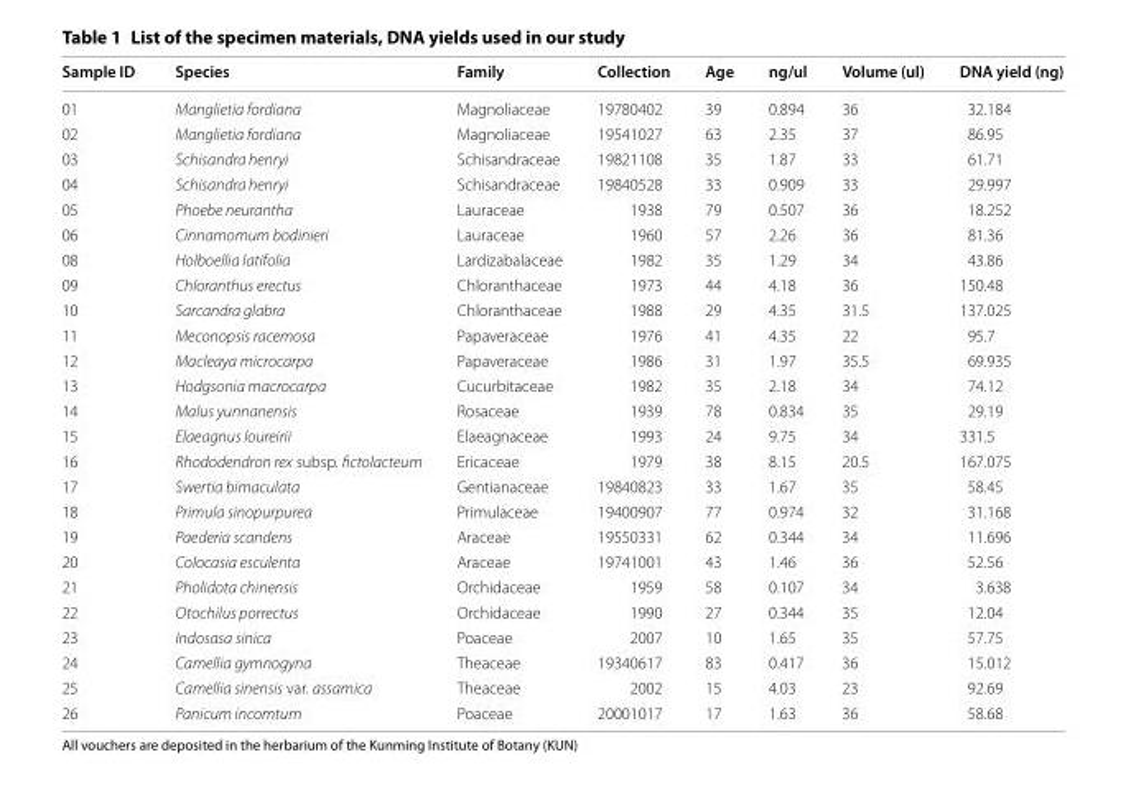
<table><thead><tr><td>Sample ID</td><td>Species</td><td>Family</td><td>Collection</td><td>Age</td><td>ng/ul</td><td>Volume (ul)</td><td>DNA yield (ng)</td></tr></thead><tbody><tr><td>01</td><td>Manglietia fordiana</td><td>Magnoliaceae</td><td>19780402</td><td>39</td><td>0.894</td><td>36</td><td>32.184</td></tr><tr><td>02</td><td>Manglietia fordiana</td><td>Magnoliaceae</td><td>19541027</td><td>63</td><td>2.35</td><td>37</td><td>86.95</td></tr><tr><td>03</td><td>Schisandra henryi</td><td>Schisandraceae</td><td>19821108</td><td>35</td><td>1.87</td><td>33</td><td>61.71</td></tr><tr><td>04</td><td>Schisandra henryi</td><td>Schisandraceae</td><td>19840528</td><td>33</td><td>0.909</td><td>33</td><td>29.997</td></tr><tr><td>05</td><td>Phoebe neurantha</td><td>Lauraceae</td><td>1938</td><td>79</td><td>0.507</td><td>36</td><td>18.252</td></tr><tr><td>06</td><td>Cinnamomum bodinieri</td><td>Lauraceae</td><td>1960</td><td>57</td><td>2.26</td><td>36</td><td>81.36</td></tr><tr><td>08</td><td>Holboellia latifolia</td><td>Lardizabalaceae</td><td>1982</td><td>35</td><td>1.29</td><td>34</td><td>43.86</td></tr><tr><td>09</td><td>Chloranthus erectus</td><td>Chloranthaceae</td><td>1973</td><td>44</td><td>4.18</td><td>36</td><td>150.48</td></tr><tr><td>10</td><td>Sarcandra glabra</td><td>Chloranthaceae</td><td>1988</td><td>29</td><td>4.35</td><td>31.5</td><td>137.025</td></tr><tr><td>11</td><td>Meconopsis racemosa</td><td>Papaveraceae</td><td>1976</td><td>41</td><td>4.35</td><td>22</td><td>95.7</td></tr><tr><td>12</td><td>Macleaya microcarpa</td><td>Papaveraceae</td><td>1986</td><td>31</td><td>1.97</td><td>35.5</td><td>69.935</td></tr><tr><td>13</td><td>Hodgsonia macrocarpa</td><td>Cucurbitaceae</td><td>1982</td><td>35</td><td>2.18</td><td>34</td><td>74.12</td></tr><tr><td>14</td><td>Malus yunnanensis</td><td>Rosaceae</td><td>1939</td><td>78</td><td>0.834</td><td>35</td><td>29.19</td></tr><tr><td>15</td><td>Elaeagnus loureirii</td><td>Elaeagnaceae</td><td>1993</td><td>24</td><td>9.75</td><td>34</td><td>331.5</td></tr><tr><td>16</td><td>Rhododendron rex subsp. fictolacteum</td><td>Ericaceae</td><td>1979</td><td>38</td><td>8.15</td><td>20.5</td><td>167.075</td></tr><tr><td>17</td><td>Swertia bimaculata</td><td>Gentianaceae</td><td>19840823</td><td>33</td><td>1.67</td><td>35</td><td>58.45</td></tr><tr><td>18</td><td>Primula sinopurpurea</td><td>Primulaceae</td><td>19400907</td><td>77</td><td>0.974</td><td>32</td><td>31.168</td></tr><tr><td>19</td><td>Paederia scandens</td><td>Araceae</td><td>19550331</td><td>62</td><td>0.344</td><td>34</td><td>11.696</td></tr><tr><td>20</td><td>Colocasia esculenta</td><td>Araceae</td><td>19741001</td><td>43</td><td>1.46</td><td>36</td><td>52.56</td></tr><tr><td>21</td><td>Pholidota chinensis</td><td>Orchidaceae</td><td>1959</td><td>58</td><td>0.107</td><td>34</td><td>3.638</td></tr><tr><td>22</td><td>Otochilus porrectus</td><td>Orchidaceae</td><td>1990</td><td>27</td><td>0.344</td><td>35</td><td>12.04</td></tr><tr><td>23</td><td>Indosasa sinica</td><td>Poaceae</td><td>2007</td><td>10</td><td>1.65</td><td>35</td><td>57.75</td></tr><tr><td>24</td><td>Camellia gymnogyna</td><td>Theaceae</td><td>19340617</td><td>83</td><td>0.417</td><td>36</td><td>15.012</td></tr><tr><td>25</td><td>Camellia sinensis var. assamica</td><td>Theaceae</td><td>2002</td><td>15</td><td>4.03</td><td>23</td><td>92.69</td></tr><tr><td>26</td><td>Panicum incomtum</td><td>Poaceae</td><td>20001017</td><td>17</td><td>1.63</td><td>36</td><td>58.68</td></tr></tbody></table>